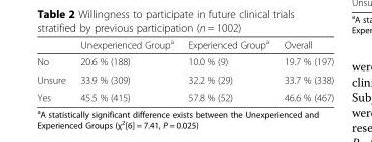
<table><thead><tr><td></td><td>Unexperienced Group<sup>a</sup></td><td>Experienced Group<sup>a</sup></td><td>Overall</td></tr></thead><tbody><tr><td>No</td><td>20.6 % (188)</td><td>10.0 % (9)</td><td>19.7 % (197)</td></tr><tr><td>Unsure</td><td>33.9 % (309)</td><td>32.2 % (29)</td><td>33.7 % (338)</td></tr><tr><td>Yes</td><td>45.5 % (415)</td><td>57.8 % (52)</td><td>46.6 % (467)</td></tr></tbody></table>